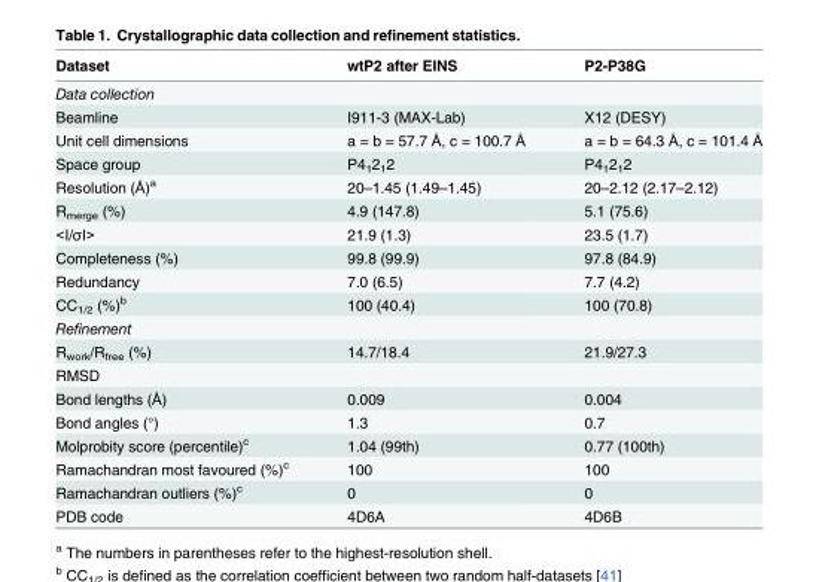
<table><thead><tr><td>Dataset</td><td>wtP2 after EINS</td><td>P2-P38G</td></tr></thead><tbody><tr><td colspan="3">Data collection</td></tr><tr><td>Beamline</td><td>I911-3 (MAX-Lab)</td><td>X12 (DESY)</td></tr><tr><td>Unit cell dimensions</td><td>a = b = 57.7 Å, c = 100.7 Å</td><td>a = b = 64.3 Å, c = 101.4 Å</td></tr><tr><td>Space group</td><td>P4<sub>1</sub>2<sub>1</sub>2</td><td>P4<sub>1</sub>2<sub>1</sub>2</td></tr><tr><td>Resolution (Å)<sup>a</sup></td><td>20–1.45 (1.49–1.45)</td><td>20–2.12 (2.17–2.12)</td></tr><tr><td>R<sub>merge</sub> (%)</td><td>4.9 (147.8)</td><td>5.1 (75.6)</td></tr><tr><td>&lt;I/σI&gt;</td><td>21.9 (1.3)</td><td>23.5 (1.7)</td></tr><tr><td>Completeness (%)</td><td>99.8 (99.9)</td><td>97.8 (84.9)</td></tr><tr><td>Redundancy</td><td>7.0 (6.5)</td><td>7.7 (4.2)</td></tr><tr><td>CC<sub>1/2</sub> (%)<sup>b</sup></td><td>100 (40.4)</td><td>100 (70.8)</td></tr><tr><td colspan="3">Refinement</td></tr><tr><td>R<sub>work/</sub>R<sub>free</sub> (%)</td><td>14.7/18.4</td><td>21.9/27.3</td></tr><tr><td colspan="3">RMSD</td></tr><tr><td>Bond lengths (Å)</td><td>0.009</td><td>0.004</td></tr><tr><td>Bond angles (°)</td><td>1.3</td><td>0.7</td></tr><tr><td>Molprobity score (percentile)<sup>c</sup></td><td>1.04 (99th)</td><td>0.77 (100th)</td></tr><tr><td>Ramachandran most favoured (%)<sup>c</sup></td><td>100</td><td>100</td></tr><tr><td>Ramachandran outliers (%)<sup>c</sup></td><td>0</td><td>0</td></tr><tr><td>PDB code</td><td>4D6A</td><td>4D6B</td></tr></tbody></table>